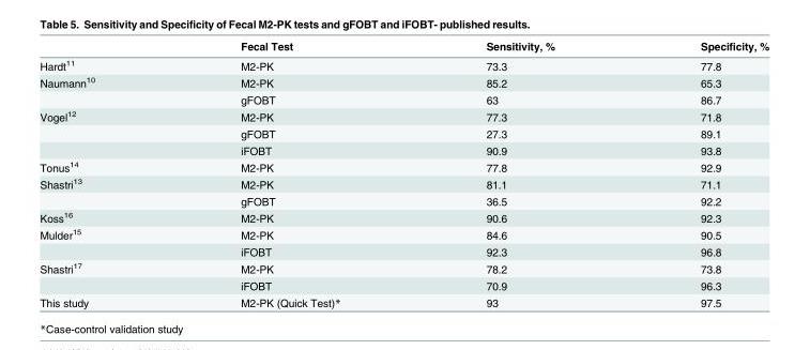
<table><thead><tr><td></td><td>Fecal Test</td><td>Sensitivity, %</td><td>Specificity, %</td></tr></thead><tbody><tr><td>Hardt<sup>11</sup></td><td>M2-PK</td><td>73.3</td><td>77.8</td></tr><tr><td rowspan="2">Naumann<sup>10</sup></td><td>M2-PK</td><td>85.2</td><td>65.3</td></tr><tr><td>gFOBT</td><td>63</td><td>86.7</td></tr><tr><td rowspan="3">Vogel<sup>12</sup></td><td>M2-PK</td><td>77.3</td><td>71.8</td></tr><tr><td>gFOBT</td><td>27.3</td><td>89.1</td></tr><tr><td>iFOBT</td><td>90.9</td><td>93.8</td></tr><tr><td>Tonus<sup>14</sup></td><td>M2-PK</td><td>77.8</td><td>92.9</td></tr><tr><td rowspan="2">Shastri<sup>13</sup></td><td>M2-PK</td><td>81.1</td><td>71.1</td></tr><tr><td>gFOBT</td><td>36.5</td><td>92.2</td></tr><tr><td>Koss<sup>16</sup></td><td>M2-PK</td><td>90.6</td><td>92.3</td></tr><tr><td rowspan="2">Mulder<sup>15</sup></td><td>M2-PK</td><td>84.6</td><td>90.5</td></tr><tr><td>iFOBT</td><td>92.3</td><td>96.8</td></tr><tr><td rowspan="2">Shastri<sup>17</sup></td><td>M2-PK</td><td>78.2</td><td>73.8</td></tr><tr><td>iFOBT</td><td>70.9</td><td>96.3</td></tr><tr><td>This study</td><td>M2-PK (Quick Test)*</td><td>93</td><td>97.5</td></tr></tbody></table>